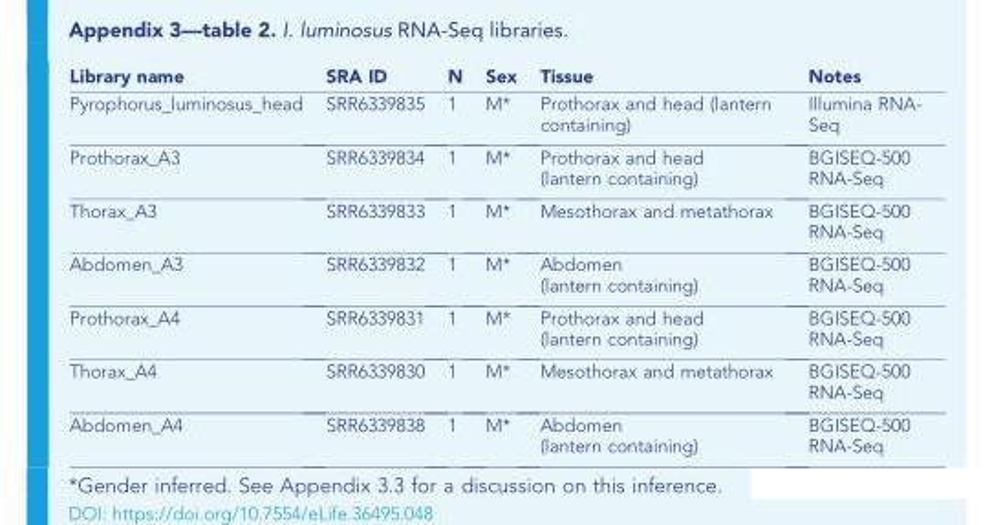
<table><thead><tr><td>Library name</td><td>SRA ID</td><td>N</td><td>Sex</td><td>Tissue</td><td>Notes</td></tr></thead><tbody><tr><td>Pyrophorus_luminosus_head</td><td>SRR6339835</td><td>1</td><td>M*</td><td>Prothorax and head (lantern containing)</td><td>Illumina RNA- Seq</td></tr><tr><td>Prothorax_A3</td><td>SRR6339834</td><td>1</td><td>M*</td><td>Prothorax and head (lantern containing)</td><td>BGISEQ-500 RNA-Seq</td></tr><tr><td>Thorax_A3</td><td>SRR6339833</td><td>1</td><td>M*</td><td>Mesothorax and metathorax</td><td>BGISEQ-500 RNA-Seq</td></tr><tr><td>Abdomen_A3</td><td>SRR6339832</td><td>1</td><td>M*</td><td>Abdomen (lantern containing)</td><td>BGISEQ-500 RNA-Seq</td></tr><tr><td>Prothorax_A4</td><td>SRR6339831</td><td>1</td><td>M*</td><td>Prothorax and head (lantern containing)</td><td>BGISEQ-500 RNA-Seq</td></tr><tr><td>Thorax_A4</td><td>SRR6339830</td><td>1</td><td>M*</td><td>Mesothorax and metathorax</td><td>BGISEQ-500 RNA-Seq</td></tr><tr><td>Abdomen_A4</td><td>SRR6339838</td><td>1</td><td>M*</td><td>Abdomen (lantern containing)</td><td>BGISEQ-500 RNA-Seq</td></tr></tbody></table>